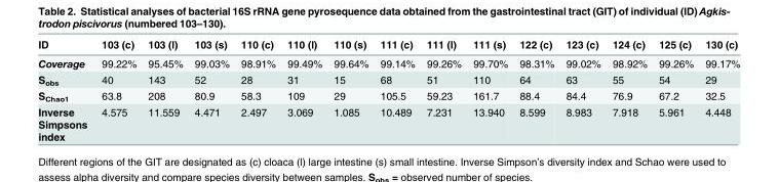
<table><thead><tr><td>ID</td><td>103 (c)</td><td>103 (l)</td><td>103 (s)</td><td>110 (c)</td><td>110 (l)</td><td>110 (s)</td><td>111 (c)</td><td>111 (l)</td><td>111 (s)</td><td>122 (c)</td><td>123 (c)</td><td>124 (c)</td><td>125 (c)</td><td>130 (c)</td></tr></thead><tbody><tr><td>Coverage</td><td>99.22%</td><td>95.45%</td><td>99.03%</td><td>98.91%</td><td>99.49%</td><td>99.64%</td><td>99.14%</td><td>99.26%</td><td>99.70%</td><td>98.31%</td><td>99.02%</td><td>98.92%</td><td>99.26%</td><td>99.17%</td></tr><tr><td>S<sub>obs</sub></td><td>40</td><td>143</td><td>52</td><td>28</td><td>31</td><td>15</td><td>68</td><td>51</td><td>110</td><td>64</td><td>63</td><td>55</td><td>54</td><td>29</td></tr><tr><td>S<sub>Chao1</sub></td><td>63.8</td><td>208</td><td>80.9</td><td>58.3</td><td>109</td><td>29</td><td>105.5</td><td>59.23</td><td>161.7</td><td>88.4</td><td>84.4</td><td>76.9</td><td>67.2</td><td>32.5</td></tr><tr><td>Inverse Simpsons index</td><td>4.575</td><td>11.559</td><td>4.471</td><td>2.497</td><td>3.069</td><td>1.085</td><td>10.489</td><td>7.231</td><td>13.940</td><td>8.599</td><td>8.983</td><td>7.918</td><td>5.961</td><td>4.448</td></tr></tbody></table>